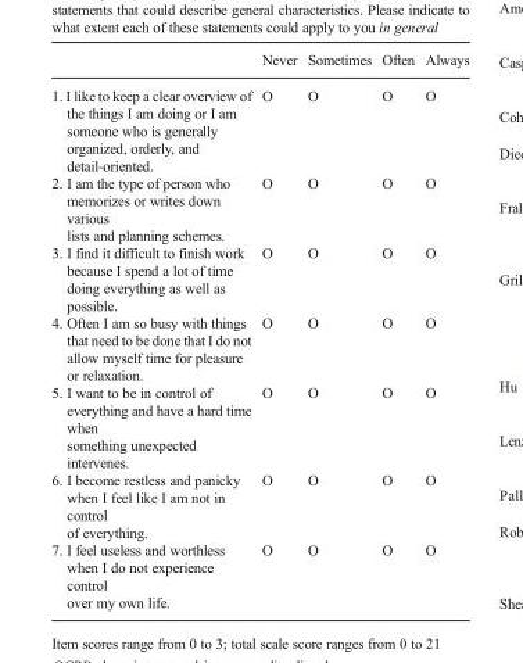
<table><thead><tr><td></td><td>Never</td><td>Sometimes</td><td>Often</td><td>Always</td></tr></thead><tbody><tr><td>1. I like to keep a clear overview of the things I am doing or I am someone who is generally organized, orderly, and detail-oriented.</td><td>O</td><td>O</td><td>O</td><td>O</td></tr><tr><td>2. I am the type of person who memorizes or writes down various lists and planning schemes.</td><td>O</td><td>O</td><td>O</td><td>O</td></tr><tr><td>3. I find it difficult to finish work because I spend a lot of time doing everything as well as possible.</td><td>O</td><td>O</td><td>O</td><td>O</td></tr><tr><td>4. Often I am so busy with things that need to be done that I do not allow myself time for pleasure or relaxation.</td><td>O</td><td>O</td><td>O</td><td>O</td></tr><tr><td>5. I want to be in control of everything and have a hard time when something unexpected intervenes.</td><td>O</td><td>O</td><td>O</td><td>O</td></tr><tr><td>6. I become restless and panicky when I feel like I am not in control of everything.</td><td>O</td><td>O</td><td>O</td><td>O</td></tr><tr><td>7. I feel useless and worthless when I do not experience control over my own life.</td><td>O</td><td>O</td><td>O</td><td>O</td></tr></tbody></table>